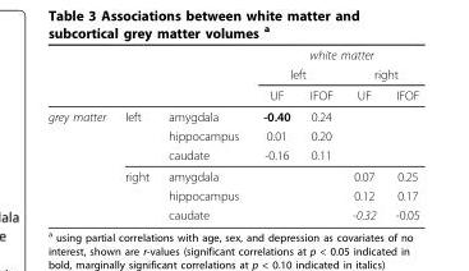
<table><thead><tr><td rowspan="3"></td><td rowspan="3"></td><td rowspan="3"></td><td colspan="4">white matter</td></tr><tr><td colspan="2">left</td><td colspan="2">right</td></tr><tr><td>UF</td><td>IFOF</td><td>UF</td><td>IFOF</td></tr></thead><tbody><tr><td rowspan="6">grey matter</td><td>left</td><td>amygdala</td><td>-0.40</td><td>0.24</td><td></td><td></td></tr><tr><td></td><td>hippocampus</td><td>0.01</td><td>0.20</td><td></td><td></td></tr><tr><td></td><td>caudate</td><td>-0.16</td><td>0.11</td><td></td><td></td></tr><tr><td>right</td><td>amygdala</td><td></td><td></td><td>0.07</td><td>0.25</td></tr><tr><td></td><td>hippocampus</td><td></td><td></td><td>0.12</td><td>0.17</td></tr><tr><td></td><td>caudate</td><td></td><td></td><td>-0.32</td><td>-0.05</td></tr></tbody></table>